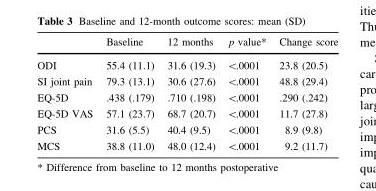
<table><thead><tr><td></td><td>Baseline</td><td>12 months</td><td>p value*</td><td>Change score</td></tr></thead><tbody><tr><td>ODI</td><td>55.4 (11.1)</td><td>31.6 (19.3)</td><td>&lt;.0001</td><td>23.8 (20.5)</td></tr><tr><td>SI joint pain</td><td>79.3 (13.1)</td><td>30.6 (27.6)</td><td>&lt;.0001</td><td>48.8 (29.4)</td></tr><tr><td>EQ-5D</td><td>.438 (.179)</td><td>.710 (.198)</td><td>&lt;.0001</td><td>.290 (.242)</td></tr><tr><td>EQ-5D VAS</td><td>57.1 (23.7)</td><td>68.7 (20.7)</td><td>&lt;.0001</td><td>11.7 (27.8)</td></tr><tr><td>PCS</td><td>31.6 (5.5)</td><td>40.4 (9.5)</td><td>&lt;.0001</td><td>8.9 (9.8)</td></tr><tr><td>MCS</td><td>38.8 (11.0)</td><td>48.0 (12.4)</td><td>&lt;.0001</td><td>9.2 (11.7)</td></tr></tbody></table>